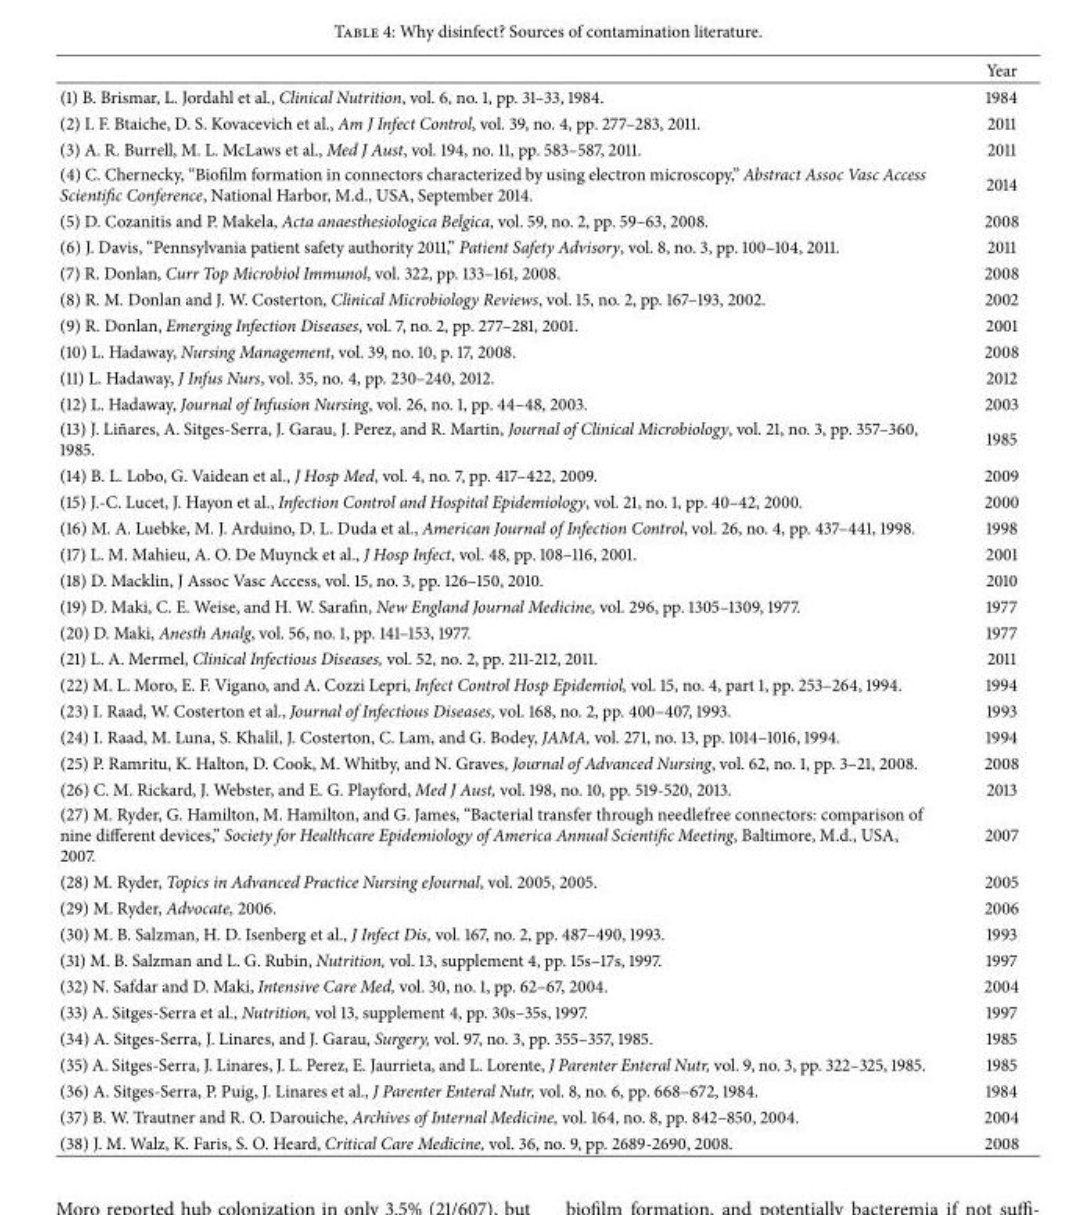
<table><thead><tr><td></td><td>Year</td></tr></thead><tbody><tr><td>(1) B. Brismar, L. Jordahl et al., Clinical Nutrition, vol. 6, no. 1, pp. 31–33, 1984.</td><td>1984</td></tr><tr><td>(2) I. F. Btaiche, D. S. Kovacevich et al., Am J Infect Control, vol. 39, no. 4, pp. 277–283, 2011.</td><td>2011</td></tr><tr><td>(3) A. R. Burrell, M. L. McLaws et al., Med J Aust, vol. 194, no. 11, pp. 583–587, 2011.</td><td>2011</td></tr><tr><td>(4) C. Chernecky, “Biofilm formation in connectors characterized by using electron microscopy,” Abstract Assoc Vasc Access Scientific Conference, National Harbor, M.d., USA, September 2014.</td><td>2014</td></tr><tr><td>(5) D. Cozanitis and P. Makela, Acta anaesthesiologica Belgica, vol. 59, no. 2, pp. 59–63, 2008.</td><td>2008</td></tr><tr><td>(6) J. Davis, “Pennsylvania patient safety authority 2011,” Patient Safety Advisory, vol. 8, no. 3, pp. 100–104, 2011.</td><td>2011</td></tr><tr><td>(7) R. Donlan, Curr Top Microbiol Immunol, vol. 322, pp. 133–161, 2008.</td><td>2008</td></tr><tr><td>(8) R. M. Donlan and J. W. Costerton, Clinical Microbiology Reviews, vol. 15, no. 2, pp. 167–193, 2002.</td><td>2002</td></tr><tr><td>(9) R. Donlan, Emerging Infection Diseases, vol. 7, no. 2, pp. 277–281, 2001.</td><td>2001</td></tr><tr><td>(10) L. Hadaway, Nursing Management, vol. 39, no. 10, p. 17, 2008.</td><td>2008</td></tr><tr><td>(11) L. Hadaway, J Infus Nurs, vol. 35, no. 4, pp. 230–240, 2012.</td><td>2012</td></tr><tr><td>(12) L. Hadaway, Journal of Infusion Nursing, vol. 26, no. 1, pp. 44–48, 2003.</td><td>2003</td></tr><tr><td>(13) J. Li˜nares, A. Sitges-Serra, J. Garau, J. Perez, and R. Martin, Journal of Clinical Microbiology, vol. 21, no. 3, pp. 357–360, 1985.</td><td>1985</td></tr><tr><td>(14) B. L. Lobo, G. Vaidean et al., J Hosp Med, vol. 4, no. 7, pp. 417–422, 2009.</td><td>2009</td></tr><tr><td>(15) J.-C. Lucet, J. Hayon et al., Infection Control and Hospital Epidemiology, vol. 21, no. 1, pp. 40–42, 2000.</td><td>2000</td></tr><tr><td>(16) M. A. Luebke, M. J. Arduino, D. L. Duda et al., American Journal of Infection Control, vol. 26, no. 4, pp. 437–441, 1998.</td><td>1998</td></tr><tr><td>(17) L. M. Mahieu, A. O. De Muynck et al., J Hosp Infect, vol. 48, pp. 108–116, 2001.</td><td>2001</td></tr><tr><td>(18) D. Macklin, J Assoc Vasc Access, vol. 15, no. 3, pp. 126–150, 2010.</td><td>2010</td></tr><tr><td>(19) D. Maki, C. E. Weise, and H. W. Sarafin, New England Journal Medicine, vol. 296, pp. 1305–1309, 1977.</td><td>1977</td></tr><tr><td>(20) D. Maki, Anesth Analg, vol. 56, no. 1, pp. 141–153, 1977.</td><td>1977</td></tr><tr><td>(21) L. A. Mermel, Clinical Infectious Diseases, vol. 52, no. 2, pp. 211-212, 2011.</td><td>2011</td></tr><tr><td>(22) M. L. Moro, E. F. Vigano, and A. Cozzi Lepri, Infect Control Hosp Epidemiol, vol. 15, no. 4, part 1, pp. 253–264, 1994.</td><td>1994</td></tr><tr><td>(23) I. Raad, W. Costerton et al., Journal of Infectious Diseases, vol. 168, no. 2, pp. 400–407, 1993.</td><td>1993</td></tr><tr><td>(24) I. Raad, M. Luna, S. Khalil, J. Costerton, C. Lam, and G. Bodey, JAMA, vol. 271, no. 13, pp. 1014–1016, 1994.</td><td>1994</td></tr><tr><td>(25) P. Ramritu, K. Halton, D. Cook, M. Whitby, and N. Graves, Journal of Advanced Nursing, vol. 62, no. 1, pp. 3–21, 2008.</td><td>2008</td></tr><tr><td>(26) C. M. Rickard, J. Webster, and E. G. Playford, Med J Aust, vol. 198, no. 10, pp. 519-520, 2013.</td><td>2013</td></tr><tr><td>(27) M. Ryder, G. Hamilton, M. Hamilton, and G. James, “Bacterial transfer through needlefree connectors: comparison of nine different devices,” Society for Healthcare Epidemiology of America Annual Scientific Meeting, Baltimore, M.d., USA, 2007.</td><td>2007</td></tr><tr><td>(28) M. Ryder, Topics in Advanced Practice Nursing eJournal, vol. 2005, 2005.</td><td>2005</td></tr><tr><td>(29) M. Ryder, Advocate, 2006.</td><td>2006</td></tr><tr><td>(30) M. B. Salzman, H. D. Isenberg et al., J Infect Dis, vol. 167, no. 2, pp. 487–490, 1993.</td><td>1993</td></tr><tr><td>(31) M. B. Salzman and L. G. Rubin, Nutrition, vol. 13, supplement 4, pp. 15s–17s, 1997.</td><td>1997</td></tr><tr><td>(32) N. Safdar and D. Maki, Intensive Care Med, vol. 30, no. 1, pp. 62–67, 2004.</td><td>2004</td></tr><tr><td>(33) A. Sitges-Serra et al., Nutrition, vol 13, supplement 4, pp. 30s–35s, 1997.</td><td>1997</td></tr><tr><td>(34) A. Sitges-Serra, J. Linares, and J. Garau, Surgery, vol. 97, no. 3, pp. 355–357, 1985.</td><td>1985</td></tr><tr><td>(35) A. Sitges-Serra, J. Linares, J. L. Perez, E. Jaurrieta, and L. Lorente, J Parenter Enteral Nutr, vol. 9, no. 3, pp. 322–325, 1985.</td><td>1985</td></tr><tr><td>(36) A. Sitges-Serra, P. Puig, J. Linares et al., J Parenter Enteral Nutr, vol. 8, no. 6, pp. 668–672, 1984.</td><td>1984</td></tr><tr><td>(37) B. W. Trautner and R. O. Darouiche, Archives of Internal Medicine, vol. 164, no. 8, pp. 842–850, 2004.</td><td>2004</td></tr><tr><td>(38) J. M. Walz, K. Faris, S. O. Heard, Critical Care Medicine, vol. 36, no. 9, pp. 2689-2690, 2008.</td><td>2008</td></tr></tbody></table>